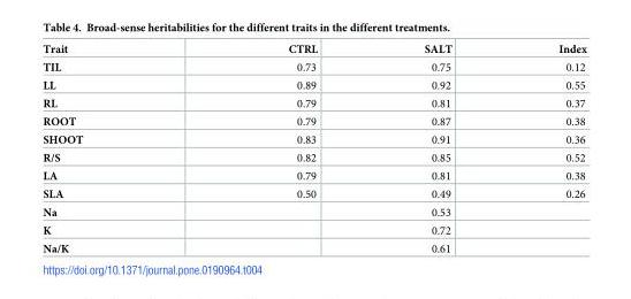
<table><thead><tr><td>Trait</td><td>CTRL</td><td>SALT</td><td>Index</td></tr></thead><tbody><tr><td>TIL</td><td>0.73</td><td>0.75</td><td>0.12</td></tr><tr><td>LL</td><td>0.89</td><td>0.92</td><td>0.55</td></tr><tr><td>RL</td><td>0.79</td><td>0.81</td><td>0.37</td></tr><tr><td>ROOT</td><td>0.79</td><td>0.87</td><td>0.38</td></tr><tr><td>SHOOT</td><td>0.83</td><td>0.91</td><td>0.36</td></tr><tr><td>R/S</td><td>0.82</td><td>0.85</td><td>0.52</td></tr><tr><td>LA</td><td>0.79</td><td>0.81</td><td>0.38</td></tr><tr><td>SLA</td><td>0.50</td><td>0.49</td><td>0.26</td></tr><tr><td>Na</td><td></td><td>0.53</td><td></td></tr><tr><td>K</td><td></td><td>0.72</td><td></td></tr><tr><td>Na/K</td><td></td><td>0.61</td><td></td></tr></tbody></table>